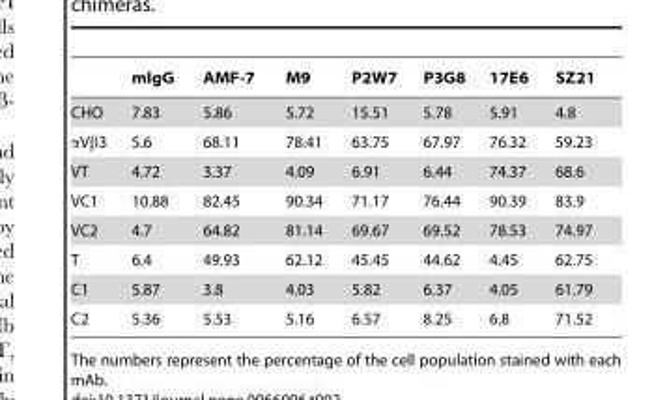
<table><thead><tr><td></td><td>mIgG</td><td>AMF-7</td><td>M9</td><td>P2W7</td><td>P3G8</td><td>17E6</td><td>SZ21</td></tr></thead><tbody><tr><td>CHO</td><td>7.83</td><td>5.86</td><td>5.72</td><td>15.51</td><td>5.78</td><td>5.91</td><td>4.8</td></tr><tr><td>αVβ3</td><td>5.6</td><td>68.11</td><td>78.41</td><td>63.75</td><td>67.97</td><td>76.32</td><td>59.23</td></tr><tr><td>VT</td><td>4.72</td><td>3.37</td><td>4.09</td><td>6.91</td><td>6.44</td><td>74.37</td><td>68.6</td></tr><tr><td>VC1</td><td>10.88</td><td>82.45</td><td>90.34</td><td>71.17</td><td>76.44</td><td>90.39</td><td>83.9</td></tr><tr><td>VC2</td><td>4.7</td><td>64.82</td><td>81.14</td><td>69.67</td><td>69.52</td><td>78.53</td><td>74.97</td></tr><tr><td>T</td><td>6.4</td><td>49.93</td><td>62.12</td><td>45.45</td><td>44.62</td><td>4.45</td><td>62.75</td></tr><tr><td>C1</td><td>5.87</td><td>3.8</td><td>4.03</td><td>5.82</td><td>6.37</td><td>4.05</td><td>61.79</td></tr><tr><td>C2</td><td>5.36</td><td>5.53</td><td>5.16</td><td>6.57</td><td>8.25</td><td>6.8</td><td>71.52</td></tr></tbody></table>